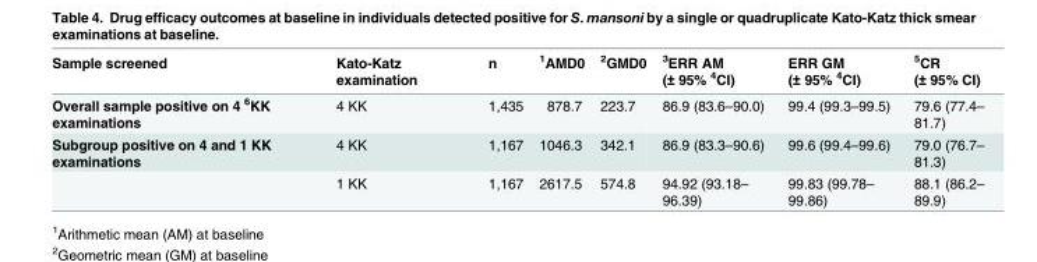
<table><thead><tr><td>Sample screened</td><td>Kato-Katz examination</td><td>n</td><td><sup>1</sup>AMD0</td><td><sup>2</sup>GMD0</td><td><sup>3</sup>ERR AM (± 95% <sup>4</sup>CI)</td><td>ERR GM (± 95% <sup>4</sup>CI)</td><td><sup>5</sup>CR (± 95% CI)</td></tr></thead><tbody><tr><td>Overall sample positive on 4 <sup>6</sup>KK examinations</td><td>4 KK</td><td>1,435</td><td>878.7</td><td>223.7</td><td>86.9 (83.6–90.0)</td><td>99.4 (99.3–99.5)</td><td>79.6 (77.4– 81.7)</td></tr><tr><td rowspan="2">Subgroup positive on 4 and 1 KK examinations</td><td>4 KK</td><td>1,167</td><td>1046.3</td><td>342.1</td><td>86.9 (83.3–90.6)</td><td>99.6 (99.4–99.6)</td><td>79.0 (76.7– 81.3)</td></tr><tr><td>1 KK</td><td>1,167</td><td>2617.5</td><td>574.8</td><td>94.92 (93.18– 96.39)</td><td>99.83 (99.78– 99.86)</td><td>88.1 (86.2– 89.9)</td></tr></tbody></table>